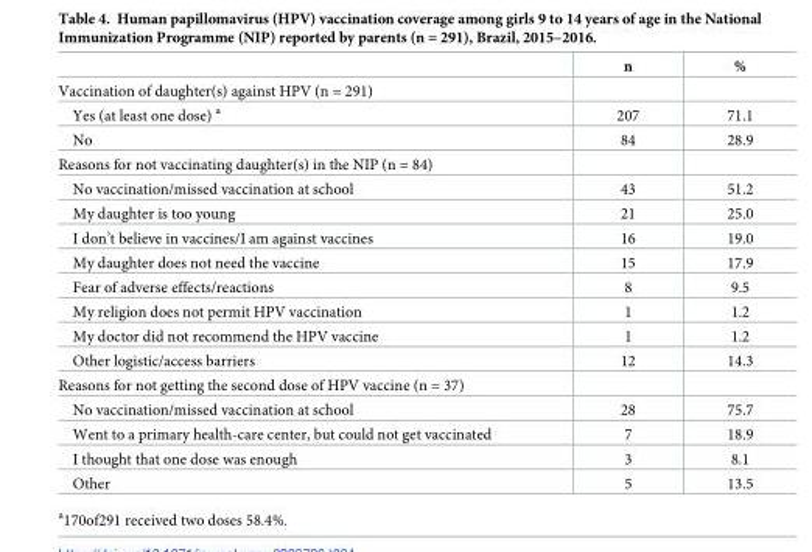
<table><thead><tr><td></td><td>n</td><td>%</td></tr></thead><tbody><tr><td colspan="3">Vaccination of daughter(s) against HPV (n = 291)</td></tr><tr><td>Yes (at least one dose) <sup>a</sup></td><td>207</td><td>71.1</td></tr><tr><td>No</td><td>84</td><td>28.9</td></tr><tr><td colspan="3">Reasons for not vaccinating daughter(s) in the NIP (n = 84)</td></tr><tr><td>No vaccination/missed vaccination at school</td><td>43</td><td>51.2</td></tr><tr><td>My daughter is too young</td><td>21</td><td>25.0</td></tr><tr><td>I don’t believe in vaccines/I am against vaccines</td><td>16</td><td>19.0</td></tr><tr><td>My daughter does not need the vaccine</td><td>15</td><td>17.9</td></tr><tr><td>Fear of adverse effects/reactions</td><td>8</td><td>9.5</td></tr><tr><td>My religion does not permit HPV vaccination</td><td>1</td><td>1.2</td></tr><tr><td>My doctor did not recommend the HPV vaccine</td><td>1</td><td>1.2</td></tr><tr><td>Other logistic/access barriers</td><td>12</td><td>14.3</td></tr><tr><td colspan="3">Reasons for not getting the second dose of HPV vaccine (n = 37)</td></tr><tr><td>No vaccination/missed vaccination at school</td><td>28</td><td>75.7</td></tr><tr><td>Went to a primary health-care center, but could not get vaccinated</td><td>7</td><td>18.9</td></tr><tr><td>I thought that one dose was enough</td><td>3</td><td>8.1</td></tr><tr><td>Other</td><td>5</td><td>13.5</td></tr></tbody></table>